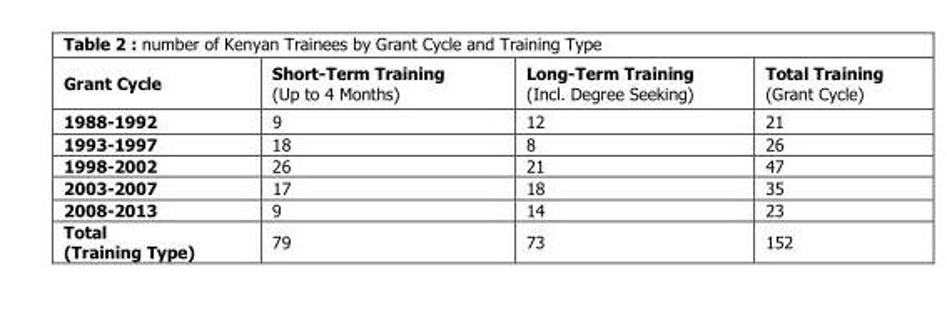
<table><thead><tr><td>Grant Cycle</td><td>Short-Term Training (Up to 4 Months)</td><td>Long-Term Training (Incl. Degree Seeking)</td><td>Total Training (Grant Cycle)</td></tr></thead><tbody><tr><td>1988-1992</td><td>9</td><td>12</td><td>21</td></tr><tr><td>1993-1997</td><td>18</td><td>8</td><td>26</td></tr><tr><td>1998-2002</td><td>26</td><td>21</td><td>47</td></tr><tr><td>2003-2007</td><td>17</td><td>18</td><td>35</td></tr><tr><td>2008-2013</td><td>9</td><td>14</td><td>23</td></tr><tr><td>Total (Training Type)</td><td>79</td><td>73</td><td>152</td></tr></tbody></table>